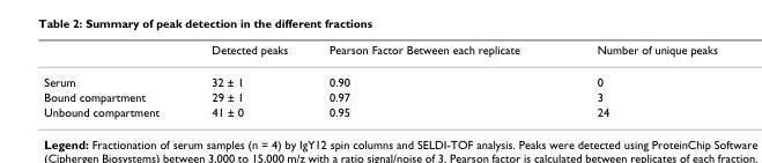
<table><thead><tr><td></td><td>Detected peaks</td><td>Pearson Factor Between each replicate</td><td>Number of unique peaks</td></tr></thead><tbody><tr><td>Serum</td><td>32 ± 1</td><td>0.90</td><td>0</td></tr><tr><td>Bound compartment</td><td>29 ± 1</td><td>0.97</td><td>3</td></tr><tr><td>Unbound compartment</td><td>41 ± 0</td><td>0.95</td><td>24</td></tr></tbody></table>